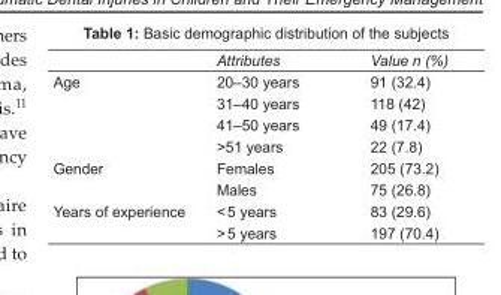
<table><thead><tr><td></td><td>Attributes</td><td>Value n (%)</td></tr></thead><tbody><tr><td rowspan="4">Age</td><td>20–30 years</td><td>91 (32.4)</td></tr><tr><td>31–40 years</td><td>118 (42)</td></tr><tr><td>41–50 years</td><td>49 (17.4)</td></tr><tr><td>&gt;51 years</td><td>22 (7.8)</td></tr><tr><td rowspan="2">Gender</td><td>Females</td><td>205 (73.2)</td></tr><tr><td>Males</td><td>75 (26.8)</td></tr><tr><td rowspan="2">Years of experience</td><td>&lt; 5 years</td><td>83 (29.6)</td></tr><tr><td>&gt; 5 years</td><td>197 (70.4)</td></tr></tbody></table>